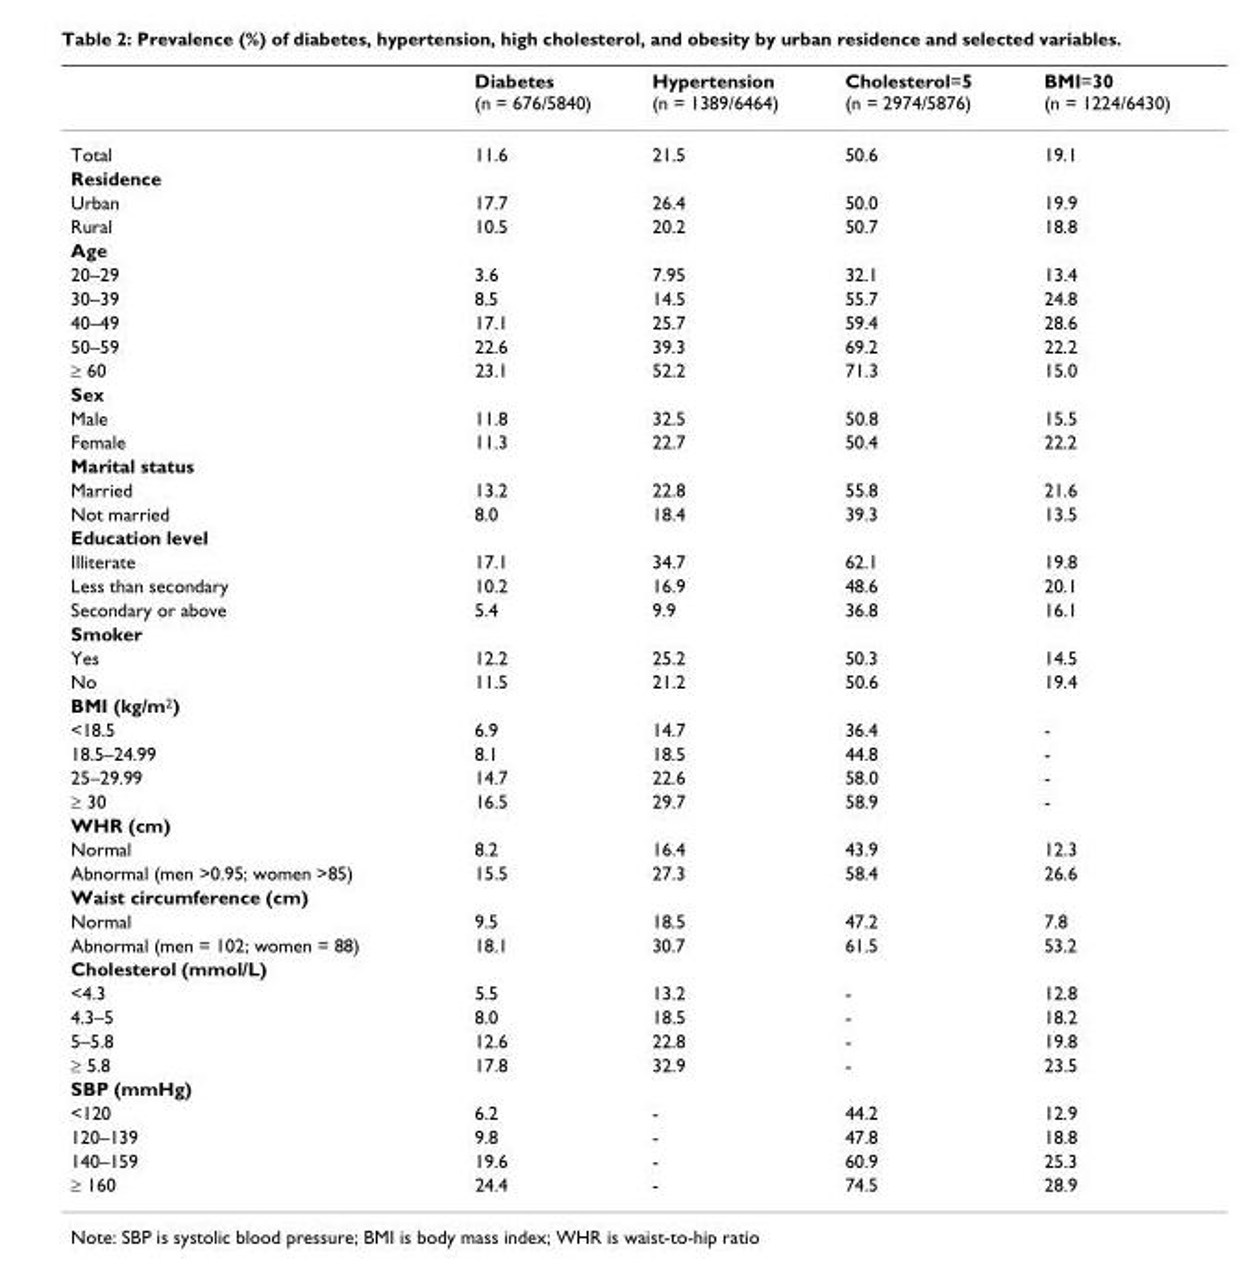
<table><thead><tr><td></td><td>Diabetes (n = 676/5840)</td><td>Hypertension (n = 1389/6464)</td><td>Cholesterol=5 (n = 2974/5876)</td><td>BMI=30 (n = 1224/6430)</td></tr></thead><tbody><tr><td>Total</td><td>11.6</td><td>21.5</td><td>50.6</td><td>19.1</td></tr><tr><td colspan="5">Residence</td></tr><tr><td>Urban</td><td>17.7</td><td>26.4</td><td>50.0</td><td>19.9</td></tr><tr><td>Rural</td><td>10.5</td><td>20.2</td><td>50.7</td><td>18.8</td></tr><tr><td colspan="5">Age</td></tr><tr><td>20–29</td><td>3.6</td><td>7.95</td><td>32.1</td><td>13.4</td></tr><tr><td>30–39</td><td>8.5</td><td>14.5</td><td>55.7</td><td>24.8</td></tr><tr><td>40–49</td><td>17.1</td><td>25.7</td><td>59.4</td><td>28.6</td></tr><tr><td>50–59</td><td>22.6</td><td>39.3</td><td>69.2</td><td>22.2</td></tr><tr><td>≥ 60</td><td>23.1</td><td>52.2</td><td>71.3</td><td>15.0</td></tr><tr><td colspan="5">Sex</td></tr><tr><td>Male</td><td>11.8</td><td>32.5</td><td>50.8</td><td>15.5</td></tr><tr><td>Female</td><td>11.3</td><td>22.7</td><td>50.4</td><td>22.2</td></tr><tr><td colspan="5">Marital status</td></tr><tr><td>Married</td><td>13.2</td><td>22.8</td><td>55.8</td><td>21.6</td></tr><tr><td>Not married</td><td>8.0</td><td>18.4</td><td>39.3</td><td>13.5</td></tr><tr><td colspan="5">Education level</td></tr><tr><td>Illiterate</td><td>17.1</td><td>34.7</td><td>62.1</td><td>19.8</td></tr><tr><td>Less than secondary</td><td>10.2</td><td>16.9</td><td>48.6</td><td>20.1</td></tr><tr><td>Secondary or above</td><td>5.4</td><td>9.9</td><td>36.8</td><td>16.1</td></tr><tr><td colspan="5">Smoker</td></tr><tr><td>Yes</td><td>12.2</td><td>25.2</td><td>50.3</td><td>14.5</td></tr><tr><td>No</td><td>11.5</td><td>21.2</td><td>50.6</td><td>19.4</td></tr><tr><td colspan="5">BMI (kg/m<sup>2</sup>)</td></tr><tr><td>&lt;18.5</td><td>6.9</td><td>14.7</td><td>36.4</td><td>-</td></tr><tr><td>18.5–24.99</td><td>8.1</td><td>18.5</td><td>44.8</td><td>-</td></tr><tr><td>25–29.99</td><td>14.7</td><td>22.6</td><td>58.0</td><td>-</td></tr><tr><td>≥ 30</td><td>16.5</td><td>29.7</td><td>58.9</td><td>-</td></tr><tr><td colspan="5">WHR (cm)</td></tr><tr><td>Normal</td><td>8.2</td><td>16.4</td><td>43.9</td><td>12.3</td></tr><tr><td>Abnormal (men &gt;0.95; women &gt;85)</td><td>15.5</td><td>27.3</td><td>58.4</td><td>26.6</td></tr><tr><td colspan="5">Waist circumference (cm)</td></tr><tr><td>Normal</td><td>9.5</td><td>18.5</td><td>47.2</td><td>7.8</td></tr><tr><td>Abnormal (men = 102; women = 88)</td><td>18.1</td><td>30.7</td><td>61.5</td><td>53.2</td></tr><tr><td colspan="5">Cholesterol (mmol/L)</td></tr><tr><td>&lt;4.3</td><td>5.5</td><td>13.2</td><td>-</td><td>12.8</td></tr><tr><td>4.3–5</td><td>8.0</td><td>18.5</td><td>-</td><td>18.2</td></tr><tr><td>5–5.8</td><td>12.6</td><td>22.8</td><td>-</td><td>19.8</td></tr><tr><td>≥ 5.8</td><td>17.8</td><td>32.9</td><td>-</td><td>23.5</td></tr><tr><td colspan="5">SBP (mmHg)</td></tr><tr><td>&lt;120</td><td>6.2</td><td>-</td><td>44.2</td><td>12.9</td></tr><tr><td>120–139</td><td>9.8</td><td>-</td><td>47.8</td><td>18.8</td></tr><tr><td>140–159</td><td>19.6</td><td>-</td><td>60.9</td><td>25.3</td></tr><tr><td>≥ 160</td><td>24.4</td><td>-</td><td>74.5</td><td>28.9</td></tr></tbody></table>